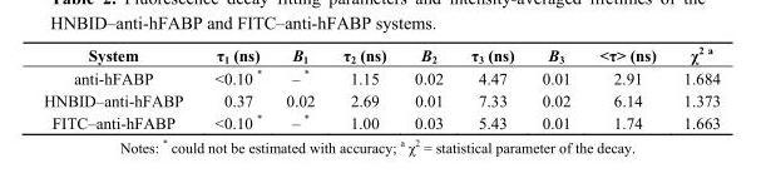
<table><thead><tr><td>System</td><td>τ<sub>1</sub> (ns)</td><td>B<sub>1</sub></td><td>τ<sub>2</sub> (ns)</td><td>B<sub>2</sub></td><td>τ<sub>3</sub> (ns)</td><td>B<sub>3</sub></td><td>&lt;τ&gt; (ns)</td><td>χ<sup>2 a</sup></td></tr></thead><tbody><tr><td>anti-hFABP</td><td>&lt;0.10 *</td><td>– *</td><td>1.15</td><td>0.02</td><td>4.47</td><td>0.01</td><td>2.91</td><td>1.684</td></tr><tr><td>HNBID–anti-hFABP</td><td>0.37</td><td>0.02</td><td>2.69</td><td>0.01</td><td>7.33</td><td>0.02</td><td>6.14</td><td>1.373</td></tr><tr><td>FITC–anti-hFABP</td><td>&lt;0.10 *</td><td>– *</td><td>1.00</td><td>0.03</td><td>5.43</td><td>0.01</td><td>1.74</td><td>1.663</td></tr></tbody></table>